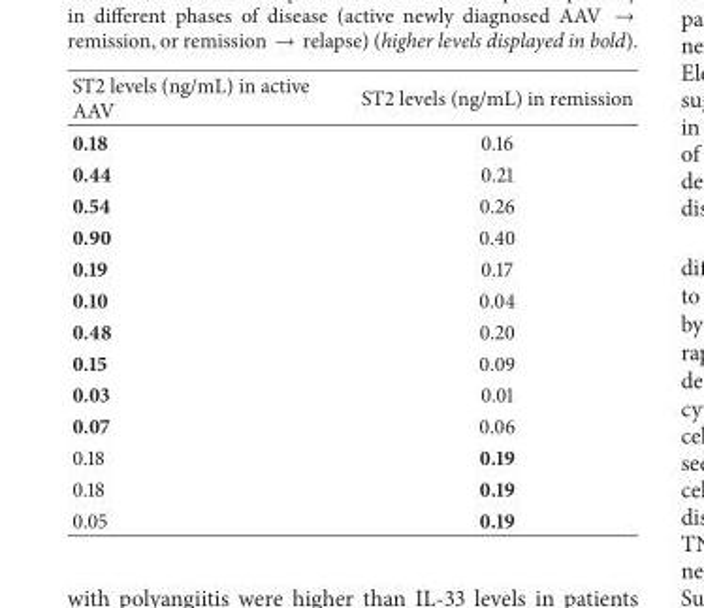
<table><thead><tr><td>ST2 levels (ng/mL) in active AAV</td><td>ST2 levels (ng/mL) in remission</td></tr></thead><tbody><tr><td>0.18</td><td>0.16</td></tr><tr><td>0.44</td><td>0.21</td></tr><tr><td>0.54</td><td>0.26</td></tr><tr><td>0.90</td><td>0.40</td></tr><tr><td>0.19</td><td>0.17</td></tr><tr><td>0.10</td><td>0.04</td></tr><tr><td>0.48</td><td>0.20</td></tr><tr><td>0.15</td><td>0.09</td></tr><tr><td>0.03</td><td>0.01</td></tr><tr><td>0.07</td><td>0.06</td></tr><tr><td>0.18</td><td>0.19</td></tr><tr><td>0.18</td><td>0.19</td></tr><tr><td>0.05</td><td>0.19</td></tr></tbody></table>